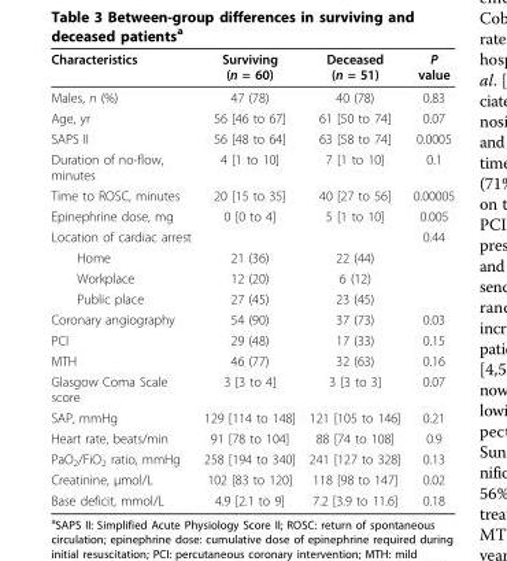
<table><thead><tr><td>Characteristics</td><td>Surviving (n = 60)</td><td>Deceased (n = 51)</td><td>P value</td></tr></thead><tbody><tr><td>Males, n (%)</td><td>47 (78)</td><td>40 (78)</td><td>0.83</td></tr><tr><td>Age, yr</td><td>56 [46 to 67]</td><td>61 [50 to 74]</td><td>0.07</td></tr><tr><td>SAPS II</td><td>56 [48 to 64]</td><td>63 [58 to 74]</td><td>0.0005</td></tr><tr><td>Duration of no-flow, minutes</td><td>4 [1 to 10]</td><td>7 [1 to 10]</td><td>0.1</td></tr><tr><td>Time to ROSC, minutes</td><td>20 [15 to 35]</td><td>40 [27 to 56]</td><td>0.00005</td></tr><tr><td>Epinephrine dose, mg</td><td>0 [0 to 4]</td><td>5 [1 to 10]</td><td>0.005</td></tr><tr><td>Location of cardiac arrest</td><td></td><td></td><td>0.44</td></tr><tr><td>Home</td><td>21 (36)</td><td>22 (44)</td><td></td></tr><tr><td>Workplace</td><td>12 (20)</td><td>6 (12)</td><td></td></tr><tr><td>Public place</td><td>27 (45)</td><td>23 (45)</td><td></td></tr><tr><td>Coronary angiography</td><td>54 (90)</td><td>37 (73)</td><td>0.03</td></tr><tr><td>PCI</td><td>29 (48)</td><td>17 (33)</td><td>0.15</td></tr><tr><td>MTH</td><td>46 (77)</td><td>32 (63)</td><td>0.16</td></tr><tr><td>Glasgow Coma Scale score</td><td>3 [3 to 4]</td><td>3 [3 to 3]</td><td>0.07</td></tr><tr><td>SAP, mmHg</td><td>129 [114 to 148]</td><td>121 [105 to 146]</td><td>0.21</td></tr><tr><td>Heart rate, beats/min</td><td>91 [78 to 104]</td><td>88 [74 to 108]</td><td>0.9</td></tr><tr><td>PaO<sub>2</sub>/FiO<sub>2</sub> ratio, mmHg</td><td>258 [194 to 340]</td><td>241 [127 to 328]</td><td>0.13</td></tr><tr><td>Creatinine, μmol/L</td><td>102 [83 to 120]</td><td>118 [98 to 147]</td><td>0.02</td></tr><tr><td>Base deficit, mmol/L</td><td>4.9 [2.1 to 9]</td><td>7.2 [3.9 to 11.6]</td><td>0.18</td></tr></tbody></table>